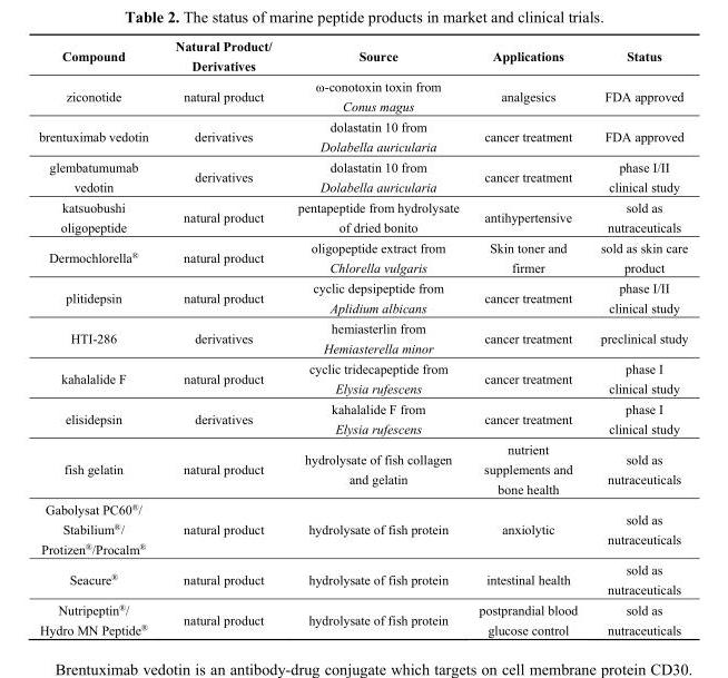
<table><thead><tr><td>Compound</td><td>Natural Product/ Derivatives</td><td>Source</td><td>Applications</td><td>Status</td></tr></thead><tbody><tr><td>ziconotide</td><td>natural product</td><td>ω-conotoxin toxin from Conus magus</td><td>analgesics</td><td>FDA approved</td></tr><tr><td>brentuximab vedotin</td><td>derivatives</td><td>dolastatin 10 from Dolabella auricularia</td><td>cancer treatment</td><td>FDA approved</td></tr><tr><td>glembatumumab vedotin</td><td>derivatives</td><td>dolastatin 10 from Dolabella auricularia</td><td>cancer treatment</td><td>phase I/II clinical study</td></tr><tr><td>katsuobushi oligopeptide</td><td>natural product</td><td>pentapeptide from hydrolysate of dried bonito</td><td>antihypertensive</td><td>sold as nutraceuticals</td></tr><tr><td>Dermochlorella<sup>®</sup></td><td>natural product</td><td>oligopeptide extract from Chlorella vulgaris</td><td>Skin toner and firmer</td><td>sold as skin care product</td></tr><tr><td>plitidepsin</td><td>natural product</td><td>cyclic depsipeptide from Aplidium albicans</td><td>cancer treatment</td><td>phase I/II clinical study</td></tr><tr><td>HTI-286</td><td>derivatives</td><td>hemiasterlin from Hemiasterella minor</td><td>cancer treatment</td><td>preclinical study</td></tr><tr><td>kahalalide F</td><td>natural product</td><td>cyclic tridecapeptide from Elysia rufescens</td><td>cancer treatment</td><td>phase I clinical study</td></tr><tr><td>elisidepsin</td><td>derivatives</td><td>kahalalide F from Elysia rufescens</td><td>cancer treatment</td><td>phase I clinical study</td></tr><tr><td>fish gelatin</td><td>natural product</td><td>hydrolysate of fish collagen and gelatin</td><td>nutrient supplements and bone health</td><td>sold as nutraceuticals</td></tr><tr><td>Gabolysat PC60<sup>®</sup>/ Stabilium<sup>®</sup>/ Protizen<sup>®</sup>/Procalm<sup>®</sup></td><td>natural product</td><td>hydrolysate of fish protein</td><td>anxiolytic</td><td>sold as nutraceuticals</td></tr><tr><td>Seacure<sup>®</sup></td><td>natural product</td><td>hydrolysate of fish protein</td><td>intestinal health</td><td>sold as nutraceuticals</td></tr><tr><td>Nutripeptin<sup>®</sup>/ Hydro MN Peptide<sup>®</sup></td><td>natural product</td><td>hydrolysate of fish protein</td><td>postprandial blood glucose control</td><td>sold as nutraceuticals</td></tr></tbody></table>